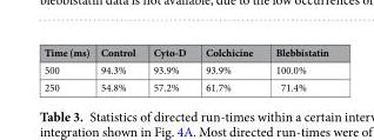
<table><thead><tr><td>Time (ms)</td><td>Control</td><td>Cyto-D</td><td>Colchicine</td><td>Blebbistatin</td></tr></thead><tbody><tr><td>500</td><td>94.3%</td><td>93.9%</td><td>93.9%</td><td>100.0%</td></tr><tr><td>250</td><td>54.8%</td><td>57.2%</td><td>61.7%</td><td>71.4%</td></tr></tbody></table>